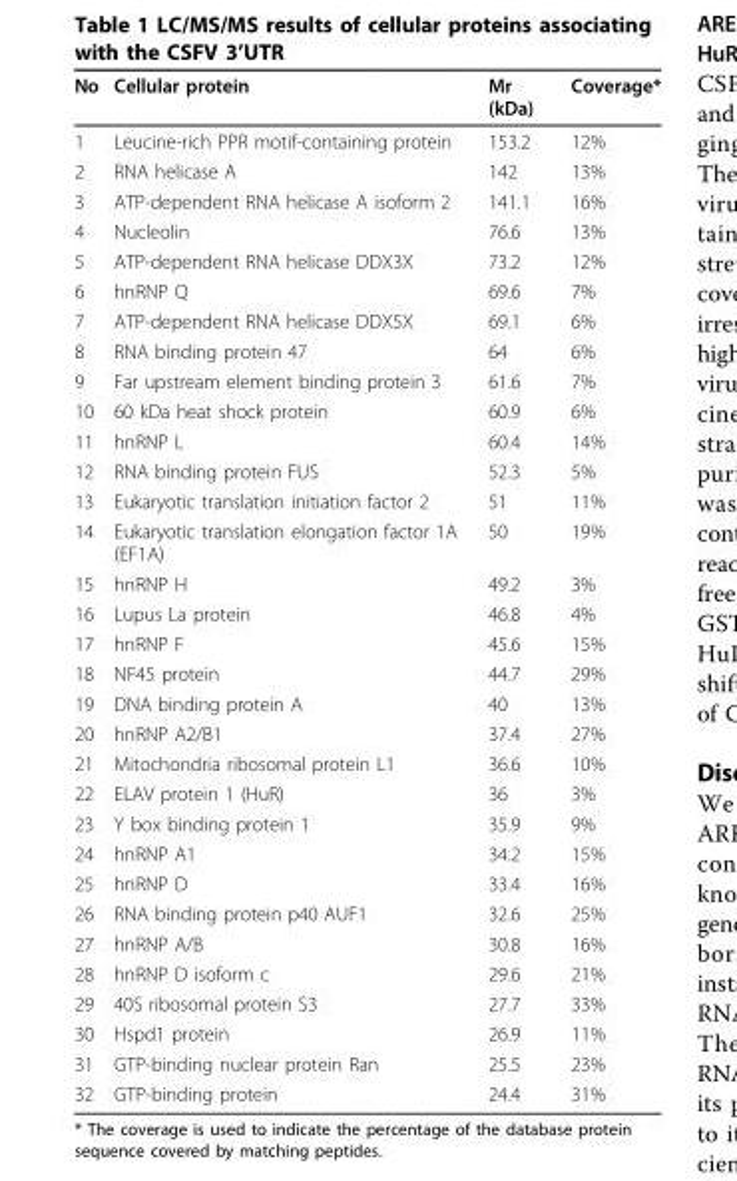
<table><thead><tr><td>No</td><td>Cellular protein</td><td>Mr (kDa)</td><td>Coverage*</td></tr></thead><tbody><tr><td>1</td><td>Leucine-rich PPR motif-containing protein</td><td>153.2</td><td>12%</td></tr><tr><td>2</td><td>RNA helicase A</td><td>142</td><td>13%</td></tr><tr><td>3</td><td>ATP-dependent RNA helicase A isoform 2</td><td>141.1</td><td>16%</td></tr><tr><td>4</td><td>Nucleolin</td><td>76.6</td><td>13%</td></tr><tr><td>5</td><td>ATP-dependent RNA helicase DDX3X</td><td>73.2</td><td>12%</td></tr><tr><td>6</td><td>hnRNP Q</td><td>69.6</td><td>7%</td></tr><tr><td>7</td><td>ATP-dependent RNA helicase DDX5X</td><td>69.1</td><td>6%</td></tr><tr><td>8</td><td>RNA binding protein 47</td><td>64</td><td>6%</td></tr><tr><td>9</td><td>Far upstream element binding protein 3</td><td>61.6</td><td>7%</td></tr><tr><td>10</td><td>60 kDa heat shock protein</td><td>60.9</td><td>6%</td></tr><tr><td>11</td><td>hnRNP L</td><td>60.4</td><td>14%</td></tr><tr><td>12</td><td>RNA binding protein FUS</td><td>52.3</td><td>5%</td></tr><tr><td>13</td><td>Eukaryotic translation initiation factor 2</td><td>51</td><td>11%</td></tr><tr><td>14</td><td>Eukaryotic translation elongation factor 1A (EF1A)</td><td>50</td><td>19%</td></tr><tr><td>15</td><td>hnRNP H</td><td>49.2</td><td>3%</td></tr><tr><td>16</td><td>Lupus La protein</td><td>46.8</td><td>4%</td></tr><tr><td>17</td><td>hnRNP F</td><td>45.6</td><td>15%</td></tr><tr><td>18</td><td>NF45 protein</td><td>44.7</td><td>29%</td></tr><tr><td>19</td><td>DNA binding protein A</td><td>40</td><td>13%</td></tr><tr><td>20</td><td>hnRNP A2/B1</td><td>37.4</td><td>27%</td></tr><tr><td>21</td><td>Mitochondria ribosomal protein L1</td><td>36.6</td><td>10%</td></tr><tr><td>22</td><td>ELAV protein 1 (HuR)</td><td>36</td><td>3%</td></tr><tr><td>23</td><td>Y box binding protein 1</td><td>35.9</td><td>9%</td></tr><tr><td>24</td><td>hnRNP A1</td><td>34.2</td><td>15%</td></tr><tr><td>25</td><td>hnRNP D</td><td>33.4</td><td>16%</td></tr><tr><td>26</td><td>RNA binding protein p40 AUF1</td><td>32.6</td><td>25%</td></tr><tr><td>27</td><td>hnRNP A/B</td><td>30.8</td><td>16%</td></tr><tr><td>28</td><td>hnRNP D isoform c</td><td>29.6</td><td>21%</td></tr><tr><td>29</td><td>40S ribosomal protein S3</td><td>27.7</td><td>33%</td></tr><tr><td>30</td><td>Hspd1 protein</td><td>26.9</td><td>11%</td></tr><tr><td>31</td><td>GTP-binding nuclear protein Ran</td><td>25.5</td><td>23%</td></tr><tr><td>32</td><td>GTP-binding protein</td><td>24.4</td><td>31%</td></tr></tbody></table>